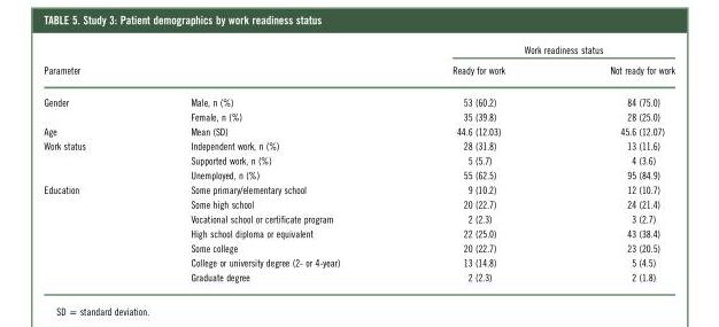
<table><thead><tr><td rowspan="2">Parameter</td><td rowspan="2"></td><td colspan="2">Work readiness status</td></tr><tr><td>Ready for work</td><td>Not ready for work</td></tr></thead><tbody><tr><td rowspan="2">Gender</td><td>Male, n (%)</td><td>53 (60.2)</td><td>84 (75.0)</td></tr><tr><td>Female, n (%)</td><td>35 (39.8)</td><td>28 (25.0)</td></tr><tr><td>Age</td><td>Mean (SD)</td><td>44.6 (12.03)</td><td>45.6 (12.07)</td></tr><tr><td rowspan="3">Work status</td><td>Independent work, n (%)</td><td>28 (31.8)</td><td>13 (11.6)</td></tr><tr><td>Supported work, n (%)</td><td>5 (5.7)</td><td>4 (3.6)</td></tr><tr><td>Unemployed, n (%)</td><td>55 (62.5)</td><td>95 (84.9)</td></tr><tr><td rowspan="7">Education</td><td>Some primary/elementary school</td><td>9 (10.2)</td><td>12 (10.7)</td></tr><tr><td>Some high school</td><td>20 (22.7)</td><td>24 (21.4)</td></tr><tr><td>Vocational school or certificate program</td><td>2 (2.3)</td><td>3 (2.7)</td></tr><tr><td>High school diploma or equivalent</td><td>22 (25.0)</td><td>43 (38.4)</td></tr><tr><td>Some college</td><td>20 (22.7)</td><td>23 (20.5)</td></tr><tr><td>College or university degree (2- or 4-year)</td><td>13 (14.8)</td><td>5 (4.5)</td></tr><tr><td>Graduate degree</td><td>2 (2.3)</td><td>2 (1.8)</td></tr></tbody></table>